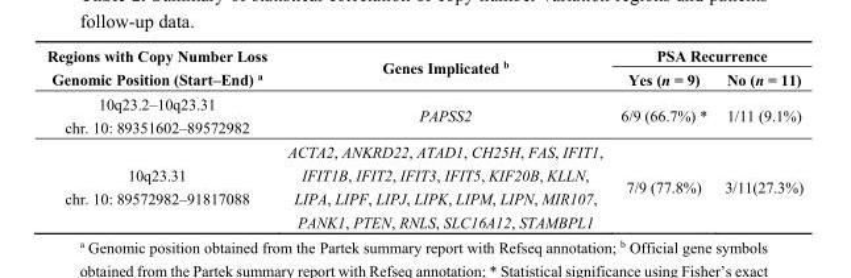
<table><thead><tr><td rowspan="2">Regions with Copy Number Loss Genomic Position (Start–End) <sup>a</sup></td><td rowspan="2">Genes Implicated <sup>b</sup></td><td colspan="2">PSA Recurrence</td></tr><tr><td>Yes (n = 9)</td><td>No (n = 11)</td></tr></thead><tbody><tr><td>10q23.2–10q23.31 chr. 10: 89351602–89572982</td><td>PAPSS2</td><td>6/9 (66.7%) *</td><td>1/11 (9.1%)</td></tr><tr><td>10q23.31 chr. 10: 89572982–91817088</td><td>ACTA2, ANKRD22, ATAD1, CH25H, FAS, IFIT1, IFIT1B, IFIT2, IFIT3, IFIT5, KIF20B, KLLN, LIPA, LIPF, LIPJ, LIPK, LIPM, LIPN, MIR107, PANK1, PTEN, RNLS, SLC16A12, STAMBPL1</td><td>7/9 (77.8%)</td><td>3/11(27.3%)</td></tr></tbody></table>